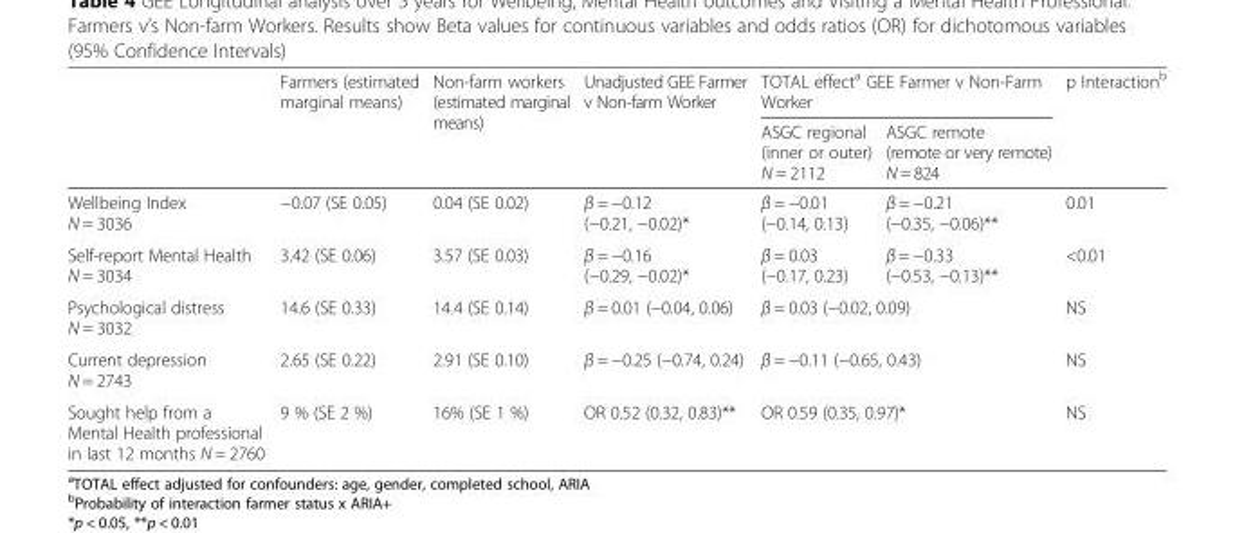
<table><thead><tr><td rowspan="2"></td><td rowspan="2">Farmers (estimated marginal means)</td><td rowspan="2">Non-farm workers (estimated marginal means)</td><td rowspan="2">Unadjusted GEE Farmer v Non-farm Worker</td><td colspan="2">TOTAL effect<sup>a</sup> GEE Farmer v Non-Farm Worker</td><td rowspan="2">p Interaction<sup>b</sup></td></tr><tr><td>ASGC regional (inner or outer) N = 2112</td><td>ASGC remote (remote or very remote) N = 824</td></tr></thead><tbody><tr><td>Wellbeing Index N = 3036</td><td>−0.07 (SE 0.05)</td><td>0.04 (SE 0.02)</td><td>β = −0.12 (−0.21, −0.02)*</td><td>β = −0.01 (−0.14, 0.13)</td><td>β = −0.21 (−0.35, −0.06)**</td><td>0.01</td></tr><tr><td>Self-report Mental Health N = 3034</td><td>3.42 (SE 0.06)</td><td>3.57 (SE 0.03)</td><td>β = −0.16 (−0.29, −0.02)*</td><td>β = 0.03 (−0.17, 0.23)</td><td>β = −0.33 (−0.53, −0.13)**</td><td>&lt;0.01</td></tr><tr><td>Psychological distress N = 3032</td><td>14.6 (SE 0.33)</td><td>14.4 (SE 0.14)</td><td>β = 0.01 (−0.04, 0.06)</td><td colspan="2">β = 0.03 (−0.02, 0.09)</td><td>NS</td></tr><tr><td>Current depression N = 2743</td><td>2.65 (SE 0.22)</td><td>2.91 (SE 0.10)</td><td>β = −0.25 (−0.74, 0.24)</td><td colspan="2">β = −0.11 (−0.65, 0.43)</td><td>NS</td></tr><tr><td>Sought help from a Mental Health professional in last 12 months N = 2760</td><td>9 % (SE 2 %)</td><td>16% (SE 1 %)</td><td>OR 0.52 (0.32, 0.83)**</td><td colspan="2">OR 0.59 (0.35, 0.97)*</td><td>NS</td></tr></tbody></table>